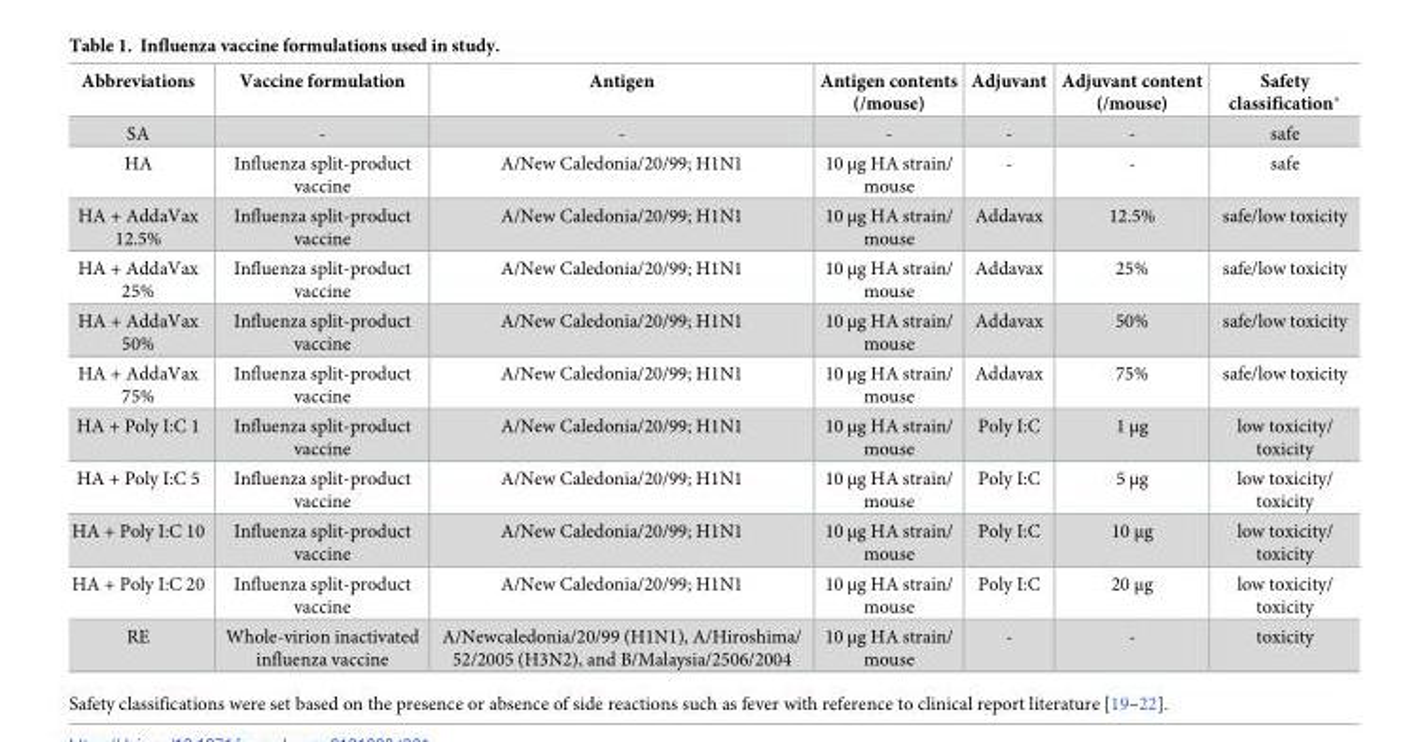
<table><thead><tr><td>Abbreviations</td><td>Vaccine formulation</td><td>Antigen</td><td>Antigen contents (/mouse)</td><td>Adjuvant</td><td>Adjuvant content (/mouse)</td><td>Safety classification*</td></tr></thead><tbody><tr><td>SA</td><td>-</td><td>-</td><td>-</td><td>-</td><td>-</td><td>safe</td></tr><tr><td>HA</td><td>Influenza split-product vaccine</td><td>A/New Caledonia/20/99; H1N1</td><td>10 μg HA strain/ mouse</td><td>-</td><td>-</td><td>safe</td></tr><tr><td>HA + AddaVax 12.5%</td><td>Influenza split-product vaccine</td><td>A/New Caledonia/20/99; H1N1</td><td>10 μg HA strain/ mouse</td><td>Addavax</td><td>12.5%</td><td>safe/low toxicity</td></tr><tr><td>HA + AddaVax 25%</td><td>Influenza split-product vaccine</td><td>A/New Caledonia/20/99; H1N1</td><td>10 μg HA strain/ mouse</td><td>Addavax</td><td>25%</td><td>safe/low toxicity</td></tr><tr><td>HA + AddaVax 50%</td><td>Influenza split-product vaccine</td><td>A/New Caledonia/20/99; H1N1</td><td>10 μg HA strain/ mouse</td><td>Addavax</td><td>50%</td><td>safe/low toxicity</td></tr><tr><td>HA + AddaVax 75%</td><td>Influenza split-product vaccine</td><td>A/New Caledonia/20/99; H1N1</td><td>10 μg HA strain/ mouse</td><td>Addavax</td><td>75%</td><td>safe/low toxicity</td></tr><tr><td>HA + Poly I:C 1</td><td>Influenza split-product vaccine</td><td>A/New Caledonia/20/99; H1N1</td><td>10 μg HA strain/ mouse</td><td>Poly I:C</td><td>1 μg</td><td>low toxicity/ toxicity</td></tr><tr><td>HA + Poly I:C 5</td><td>Influenza split-product vaccine</td><td>A/New Caledonia/20/99; H1N1</td><td>10 μg HA strain/ mouse</td><td>Poly I:C</td><td>5 μg</td><td>low toxicity/ toxicity</td></tr><tr><td>HA + Poly I:C 10</td><td>Influenza split-product vaccine</td><td>A/New Caledonia/20/99; H1N1</td><td>10 μg HA strain/ mouse</td><td>Poly I:C</td><td>10 μg</td><td>low toxicity/ toxicity</td></tr><tr><td>HA + Poly I:C 20</td><td>Influenza split-product vaccine</td><td>A/New Caledonia/20/99; H1N1</td><td>10 μg HA strain/ mouse</td><td>Poly I:C</td><td>20 μg</td><td>low toxicity/ toxicity</td></tr><tr><td>RE</td><td>Whole-virion inactivated influenza vaccine</td><td>A/Newcaledonia/20/99 (H1N1), A/Hiroshima/ 52/2005 (H3N2), and B/Malaysia/2506/2004</td><td>10 μg HA strain/ mouse</td><td>-</td><td>-</td><td>toxicity</td></tr></tbody></table>